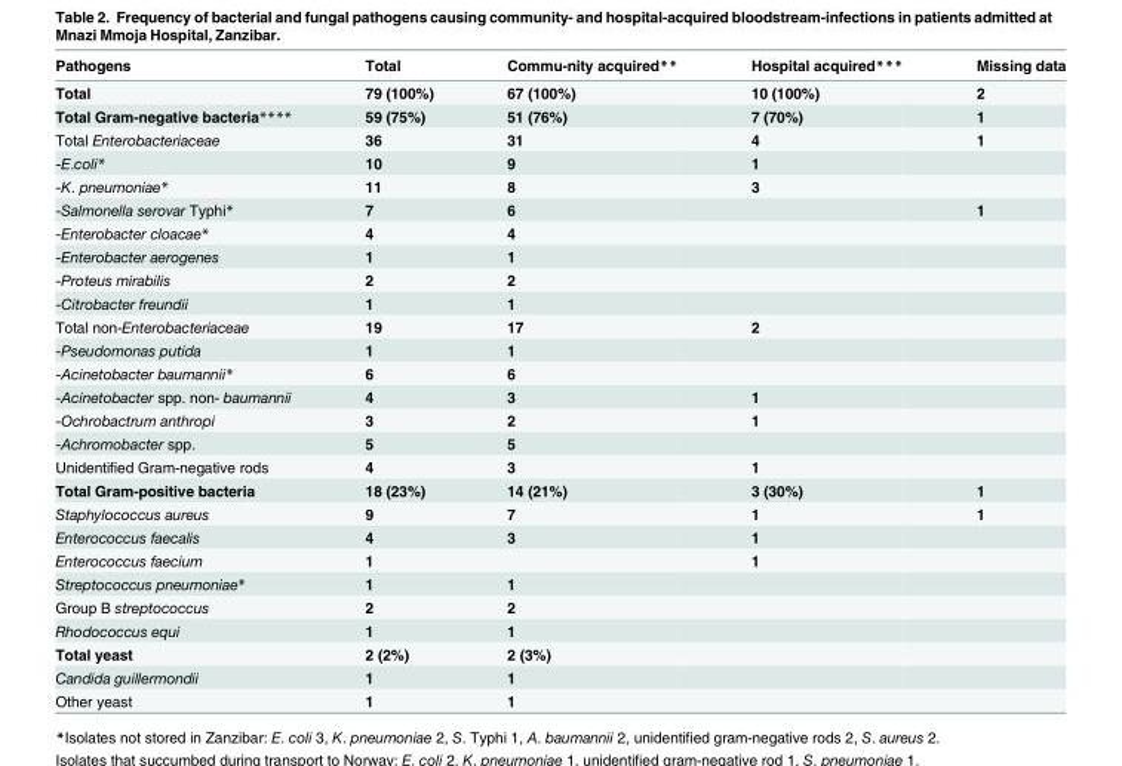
<table><thead><tr><td>Pathogens</td><td>Total</td><td>Commu-nity acquired**</td><td>Hospital acquired***</td><td>Missing data</td></tr></thead><tbody><tr><td>Total</td><td>79 (100%)</td><td>67 (100%)</td><td>10 (100%)</td><td>2</td></tr><tr><td>Total Gram-negative bacteria****</td><td>59 (75%)</td><td>51 (76%)</td><td>7 (70%)</td><td>1</td></tr><tr><td>Total Enterobacteriaceae</td><td>36</td><td>31</td><td>4</td><td>1</td></tr><tr><td>-E.coli*</td><td>10</td><td>9</td><td>1</td><td></td></tr><tr><td>-K. pneumoniae*</td><td>11</td><td>8</td><td>3</td><td></td></tr><tr><td>-Salmonella serovar Typhi*</td><td>7</td><td>6</td><td></td><td>1</td></tr><tr><td>-Enterobacter cloacae*</td><td>4</td><td>4</td><td></td><td></td></tr><tr><td>-Enterobacter aerogenes</td><td>1</td><td>1</td><td></td><td></td></tr><tr><td>-Proteus mirabilis</td><td>2</td><td>2</td><td></td><td></td></tr><tr><td>-Citrobacter freundii</td><td>1</td><td>1</td><td></td><td></td></tr><tr><td>Total non-Enterobacteriaceae</td><td>19</td><td>17</td><td>2</td><td></td></tr><tr><td>-Pseudomonas putida</td><td>1</td><td>1</td><td></td><td></td></tr><tr><td>-Acinetobacter baumannii*</td><td>6</td><td>6</td><td></td><td></td></tr><tr><td>-Acinetobacter spp. non- baumannii</td><td>4</td><td>3</td><td>1</td><td></td></tr><tr><td>-Ochrobactrum anthropi</td><td>3</td><td>2</td><td>1</td><td></td></tr><tr><td>-Achromobacter spp.</td><td>5</td><td>5</td><td></td><td></td></tr><tr><td>Unidentified Gram-negative rods</td><td>4</td><td>3</td><td>1</td><td></td></tr><tr><td>Total Gram-positive bacteria</td><td>18 (23%)</td><td>14 (21%)</td><td>3 (30%)</td><td>1</td></tr><tr><td>Staphylococcus aureus</td><td>9</td><td>7</td><td>1</td><td>1</td></tr><tr><td>Enterococcus faecalis</td><td>4</td><td>3</td><td>1</td><td></td></tr><tr><td>Enterococcus faecium</td><td>1</td><td></td><td>1</td><td></td></tr><tr><td>Streptococcus pneumoniae*</td><td>1</td><td>1</td><td></td><td></td></tr><tr><td>Group B streptococcus</td><td>2</td><td>2</td><td></td><td></td></tr><tr><td>Rhodococcus equi</td><td>1</td><td>1</td><td></td><td></td></tr><tr><td>Total yeast</td><td>2 (2%)</td><td>2 (3%)</td><td></td><td></td></tr><tr><td>Candida guillermondii</td><td>1</td><td>1</td><td></td><td></td></tr><tr><td>Other yeast</td><td>1</td><td>1</td><td></td><td></td></tr></tbody></table>